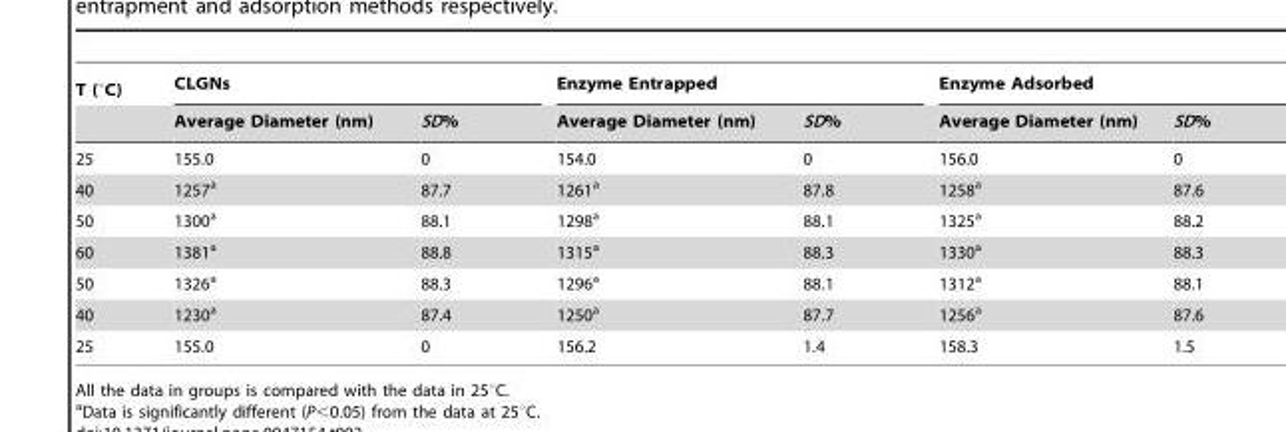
<table><thead><tr><td rowspan="2">T (°C)</td><td colspan="2">CLGNs</td><td colspan="2">Enzyme Entrapped</td><td colspan="2">Enzyme Adsorbed</td></tr><tr><td>Average Diameter (nm)</td><td>SD%</td><td>Average Diameter (nm)</td><td>SD%</td><td>Average Diameter (nm)</td><td>SD%</td></tr></thead><tbody><tr><td>25</td><td>155.0</td><td>0</td><td>154.0</td><td>0</td><td>156.0</td><td>0</td></tr><tr><td>40</td><td>1257<sup>a</sup></td><td>87.7</td><td>1261<sup>a</sup></td><td>87.8</td><td>1258<sup>a</sup></td><td>87.6</td></tr><tr><td>50</td><td>1300<sup>a</sup></td><td>88.1</td><td>1298<sup>a</sup></td><td>88.1</td><td>1325<sup>a</sup></td><td>88.2</td></tr><tr><td>60</td><td>1381<sup>a</sup></td><td>88.8</td><td>1315<sup>a</sup></td><td>88.3</td><td>1330<sup>a</sup></td><td>88.3</td></tr><tr><td>50</td><td>1326<sup>a</sup></td><td>88.3</td><td>1296<sup>a</sup></td><td>88.1</td><td>1312<sup>a</sup></td><td>88.1</td></tr><tr><td>40</td><td>1230<sup>a</sup></td><td>87.4</td><td>1250<sup>a</sup></td><td>87.7</td><td>1256<sup>a</sup></td><td>87.6</td></tr><tr><td>25</td><td>155.0</td><td>0</td><td>156.2</td><td>1.4</td><td>158.3</td><td>1.5</td></tr></tbody></table>